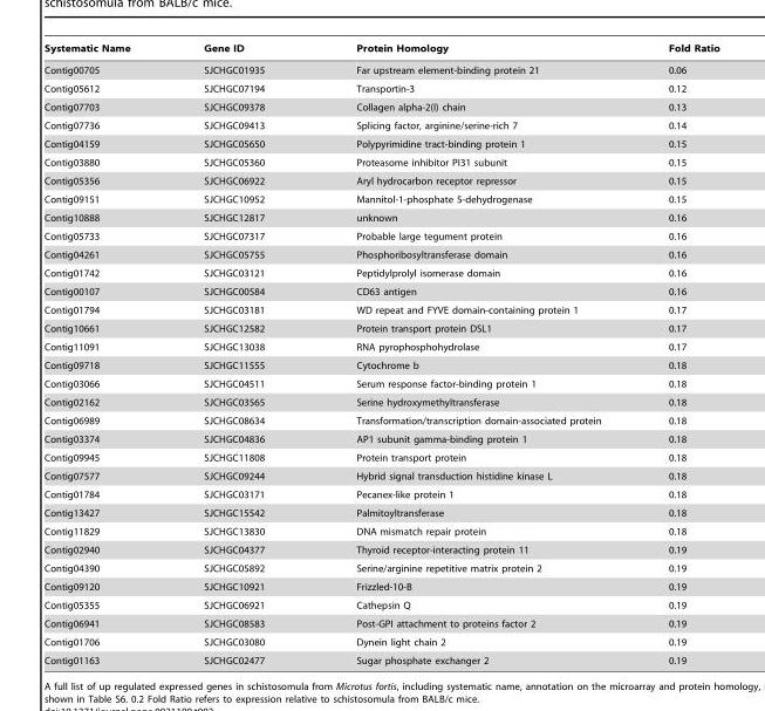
<table><thead><tr><td>Systematic Name</td><td>Gene ID</td><td>Protein Homology</td><td>Fold Ratio</td></tr></thead><tbody><tr><td>Contig00705</td><td>SJCHGC01935</td><td>Far upstream element-binding protein 21</td><td>0.06</td></tr><tr><td>Contig05612</td><td>SJCHGC07194</td><td>Transportin-3</td><td>0.12</td></tr><tr><td>Contig07703</td><td>SJCHGC09378</td><td>Collagen alpha-2(I) chain</td><td>0.13</td></tr><tr><td>Contig07736</td><td>SJCHGC09413</td><td>Splicing factor, arginine/serine-rich 7</td><td>0.14</td></tr><tr><td>Contig04159</td><td>SJCHGC05650</td><td>Polypyrimidine tract-binding protein 1</td><td>0.15</td></tr><tr><td>Contig03880</td><td>SJCHGC05360</td><td>Proteasome inhibitor PI31 subunit</td><td>0.15</td></tr><tr><td>Contig05356</td><td>SJCHGC06922</td><td>Aryl hydrocarbon receptor repressor</td><td>0.15</td></tr><tr><td>Contig09151</td><td>SJCHGC10952</td><td>Mannitol-1-phosphate 5-dehydrogenase</td><td>0.15</td></tr><tr><td>Contig10888</td><td>SJCHGC12817</td><td>unknown</td><td>0.16</td></tr><tr><td>Contig05733</td><td>SJCHGC07317</td><td>Probable large tegument protein</td><td>0.16</td></tr><tr><td>Contig04261</td><td>SJCHGC05755</td><td>Phosphoribosyltransferase domain</td><td>0.16</td></tr><tr><td>Contig01742</td><td>SJCHGC03121</td><td>Peptidylprolyl isomerase domain</td><td>0.16</td></tr><tr><td>Contig00107</td><td>SJCHGC00584</td><td>CD63 antigen</td><td>0.16</td></tr><tr><td>Contig01794</td><td>SJCHGC03181</td><td>WD repeat and FYVE domain-containing protein 1</td><td>0.17</td></tr><tr><td>Contig10661</td><td>SJCHGC12582</td><td>Protein transport protein DSL1</td><td>0.17</td></tr><tr><td>Contig11091</td><td>SJCHGC13038</td><td>RNA pyrophosphohydrolase</td><td>0.17</td></tr><tr><td>Contig09718</td><td>SJCHGC11555</td><td>Cytochrome b</td><td>0.18</td></tr><tr><td>Contig03066</td><td>SJCHGC04511</td><td>Serum response factor-binding protein 1</td><td>0.18</td></tr><tr><td>Contig02162</td><td>SJCHGC03565</td><td>Serine hydroxymethyltransferase</td><td>0.18</td></tr><tr><td>Contig06989</td><td>SJCHGC08634</td><td>Transformation/transcription domain-associated protein</td><td>0.18</td></tr><tr><td>Contig03374</td><td>SJCHGC04836</td><td>AP1 subunit gamma-binding protein 1</td><td>0.18</td></tr><tr><td>Contig09945</td><td>SJCHGC11808</td><td>Protein transport protein</td><td>0.18</td></tr><tr><td>Contig07577</td><td>SJCHGC09244</td><td>Hybrid signal transduction histidine kinase L</td><td>0.18</td></tr><tr><td>Contig01784</td><td>SJCHGC03171</td><td>Pecanex-like protein 1</td><td>0.18</td></tr><tr><td>Contig13427</td><td>SJCHGC15542</td><td>Palmitoyltransferase</td><td>0.18</td></tr><tr><td>Contig11829</td><td>SJCHGC13830</td><td>DNA mismatch repair protein</td><td>0.18</td></tr><tr><td>Contig02940</td><td>SJCHGC04377</td><td>Thyroid receptor-interacting protein 11</td><td>0.19</td></tr><tr><td>Contig04390</td><td>SJCHGC05892</td><td>Serine/arginine repetitive matrix protein 2</td><td>0.19</td></tr><tr><td>Contig09120</td><td>SJCHGC10921</td><td>Frizzled-10-B</td><td>0.19</td></tr><tr><td>Contig05355</td><td>SJCHGC06921</td><td>Cathepsin Q</td><td>0.19</td></tr><tr><td>Contig06941</td><td>SJCHGC08583</td><td>Post-GPI attachment to proteins factor 2</td><td>0.19</td></tr><tr><td>Contig01706</td><td>SJCHGC03080</td><td>Dynein light chain 2</td><td>0.19</td></tr><tr><td>Contig01163</td><td>SJCHGC02477</td><td>Sugar phosphate exchanger 2</td><td>0.19</td></tr></tbody></table>